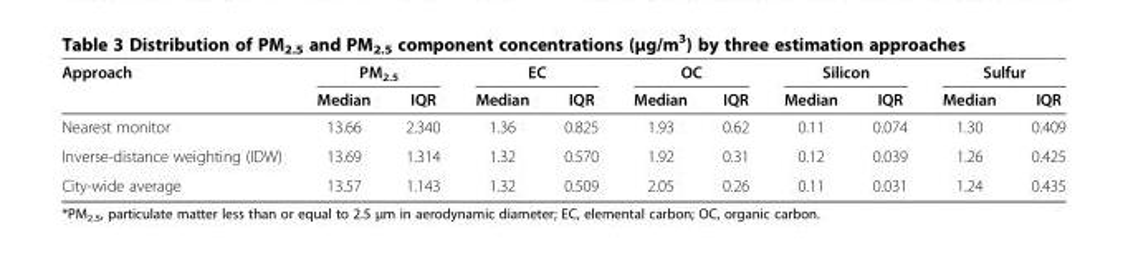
<table><thead><tr><td rowspan="2">Approach</td><td colspan="2">PM<sub>2.5</sub></td><td colspan="2">EC</td><td colspan="2">OC</td><td colspan="2">Silicon</td><td colspan="2">Sulfur</td></tr><tr><td>Median</td><td>IQR</td><td>Median</td><td>IQR</td><td>Median</td><td>IQR</td><td>Median</td><td>IQR</td><td>Median</td><td>IQR</td></tr></thead><tbody><tr><td>Nearest monitor</td><td>13.66</td><td>2.340</td><td>1.36</td><td>0.825</td><td>1.93</td><td>0.62</td><td>0.11</td><td>0.074</td><td>1.30</td><td>0.409</td></tr><tr><td>Inverse-distance weighting (IDW)</td><td>13.69</td><td>1.314</td><td>1.32</td><td>0.570</td><td>1.92</td><td>0.31</td><td>0.12</td><td>0.039</td><td>1.26</td><td>0.425</td></tr><tr><td>City-wide average</td><td>13.57</td><td>1.143</td><td>1.32</td><td>0.509</td><td>2.05</td><td>0.26</td><td>0.11</td><td>0.031</td><td>1.24</td><td>0.435</td></tr></tbody></table>